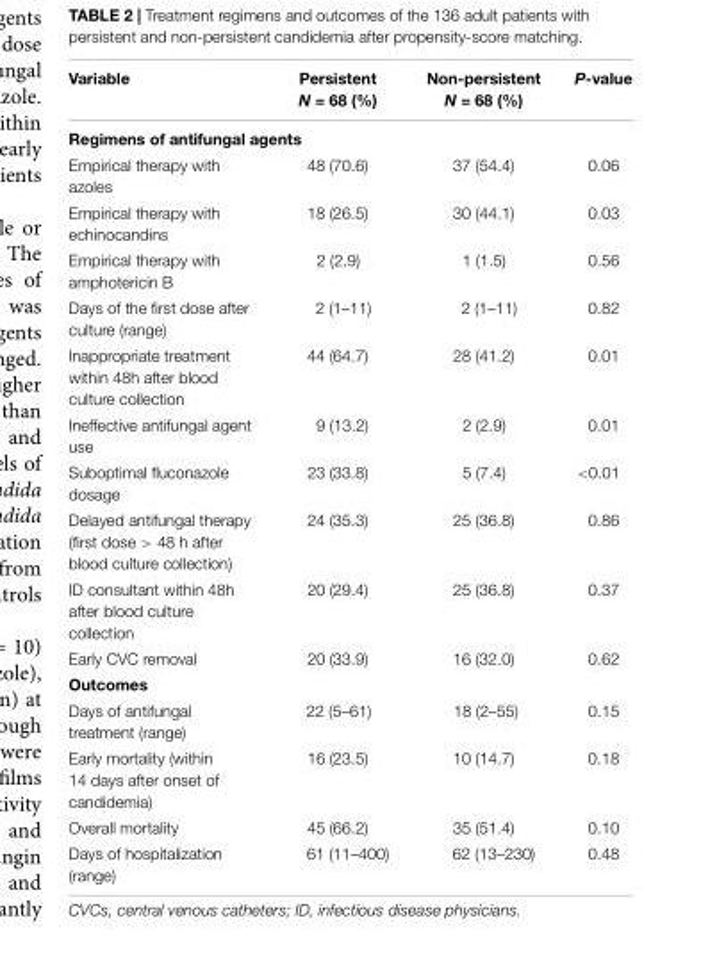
<table><thead><tr><td>Variable</td><td>Persistent N = 68 (%)</td><td>Non-persistent N = 68 (%)</td><td>P-value</td></tr></thead><tbody><tr><td colspan="4">Regimens of antifungal agents</td></tr><tr><td>Empirical therapy with azoles</td><td>48 (70.6)</td><td>37 (54.4)</td><td>0.06</td></tr><tr><td>Empirical therapy with echinocandins</td><td>18 (26.5)</td><td>30 (44.1)</td><td>0.03</td></tr><tr><td>Empirical therapy with amphotericin B</td><td>2 (2.9)</td><td>1 (1.5)</td><td>0.56</td></tr><tr><td>Days of the first dose after culture (range)</td><td>2 (1–11)</td><td>2 (1–11)</td><td>0.82</td></tr><tr><td>Inappropriate treatment within 48h after blood culture collection</td><td>44 (64.7)</td><td>28 (41.2)</td><td>0.01</td></tr><tr><td>Ineffective antifungal agent use</td><td>9 (13.2)</td><td>2 (2.9)</td><td>0.01</td></tr><tr><td>Suboptimal fluconazole dosage</td><td>23 (33.8)</td><td>5 (7.4)</td><td>&lt;0.01</td></tr><tr><td>Delayed antifungal therapy (first dose &gt; 48 h after blood culture collection)</td><td>24 (35.3)</td><td>25 (36.8)</td><td>0.86</td></tr><tr><td>ID consultant within 48h after blood culture collection</td><td>20 (29.4)</td><td>25 (36.8)</td><td>0.37</td></tr><tr><td>Early CVC removal</td><td>20 (33.9)</td><td>16 (32.0)</td><td>0.62</td></tr><tr><td colspan="4">Outcomes</td></tr><tr><td>Days of antifungal treatment (range)</td><td>22 (5–61)</td><td>18 (2–55)</td><td>0.15</td></tr><tr><td>Early mortality (within 14 days after onset of candidemia)</td><td>16 (23.5)</td><td>10 (14.7)</td><td>0.18</td></tr><tr><td>Overall mortality</td><td>45 (66.2)</td><td>35 (51.4)</td><td>0.10</td></tr><tr><td>Days of hospitalization (range)</td><td>61 (11–400)</td><td>62 (13–230)</td><td>0.48</td></tr></tbody></table>